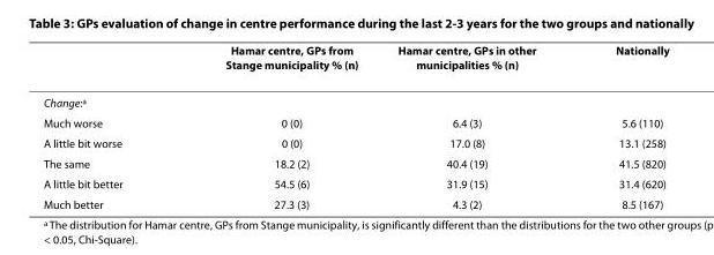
<table><thead><tr><td></td><td>Hamar centre, GPs from Stange municipality % (n)</td><td>Hamar centre, GPs in other municipalities % (n)</td><td>Nationally</td></tr></thead><tbody><tr><td colspan="4">Change:<sup>a</sup></td></tr><tr><td>Much worse</td><td>0 (0)</td><td>6.4 (3)</td><td>5.6 (110)</td></tr><tr><td>A little bit worse</td><td>0 (0)</td><td>17.0 (8)</td><td>13.1 (258)</td></tr><tr><td>The same</td><td>18.2 (2)</td><td>40.4 (19)</td><td>41.5 (820)</td></tr><tr><td>A little bit better</td><td>54.5 (6)</td><td>31.9 (15)</td><td>31.4 (620)</td></tr><tr><td>Much better</td><td>27.3 (3)</td><td>4.3 (2)</td><td>8.5 (167)</td></tr></tbody></table>